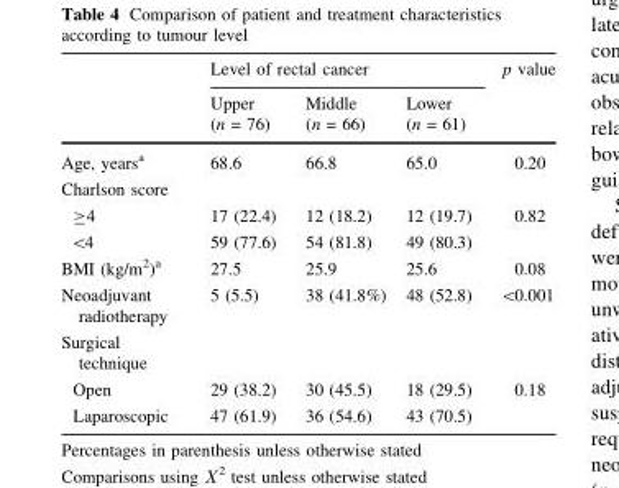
<table><thead><tr><td rowspan="2"></td><td colspan="3">Level of rectal cancer</td><td rowspan="2">p value</td></tr><tr><td>Upper (n = 76)</td><td>Middle (n = 66)</td><td>Lower (n = 61)</td></tr></thead><tbody><tr><td>Age, years<sup>a</sup></td><td>68.6</td><td>66.8</td><td>65.0</td><td>0.20</td></tr><tr><td colspan="5">Charlson score</td></tr><tr><td>≥4</td><td>17 (22.4)</td><td>12 (18.2)</td><td>12 (19.7)</td><td>0.82</td></tr><tr><td>&lt;4</td><td>59 (77.6)</td><td>54 (81.8)</td><td>49 (80.3)</td><td></td></tr><tr><td>BMI (kg/m<sup>2</sup>)<sup>a</sup></td><td>27.5</td><td>25.9</td><td>25.6</td><td>0.08</td></tr><tr><td>Neoadjuvant radiotherapy</td><td>5 (5.5)</td><td>38 (41.8%)</td><td>48 (52.8)</td><td>&lt;0.001</td></tr><tr><td colspan="5">Surgical technique</td></tr><tr><td>Open</td><td>29 (38.2)</td><td>30 (45.5)</td><td>18 (29.5)</td><td>0.18</td></tr><tr><td>Laparoscopic</td><td>47 (61.9)</td><td>36 (54.6)</td><td>43 (70.5)</td><td></td></tr></tbody></table>